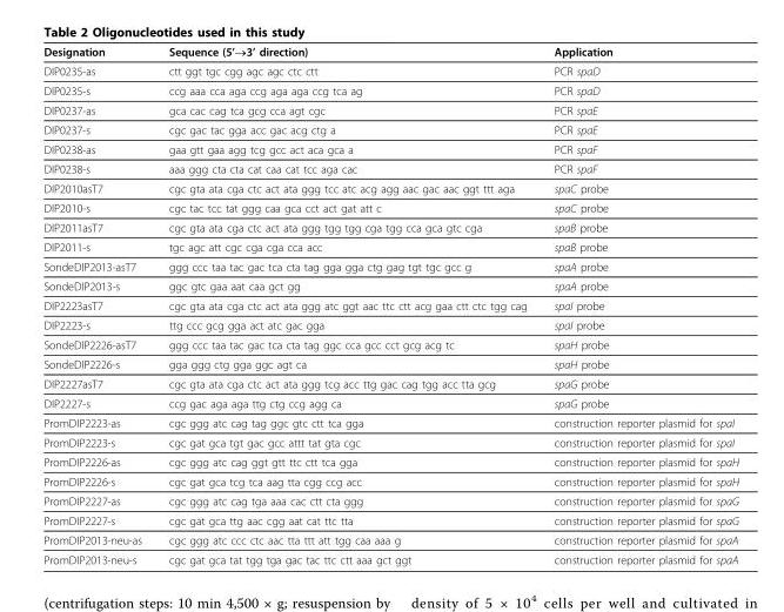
<table><thead><tr><td>Designation</td><td>Sequence (5’→3’ direction)</td><td>Application</td></tr></thead><tbody><tr><td>DIP0235-as</td><td>ctt ggt tgc cgg agc agc ctc ctt</td><td>PCR spaD</td></tr><tr><td>DIP0235-s</td><td>ccg aaa cca aga ccg aga aga ccg tca ag</td><td>PCR spaD</td></tr><tr><td>DIP0237-as</td><td>gca cac cag tca gcg cca agt cgc</td><td>PCR spaE</td></tr><tr><td>DIP0237-s</td><td>cgc gac tac gga acc gac acg ctg a</td><td>PCR spaE</td></tr><tr><td>DIP0238-as</td><td>gaa gtt gaa agg tcg gcc act aca gca a</td><td>PCR spaF</td></tr><tr><td>DIP0238-s</td><td>aaa ggg cta cta cat caa cat tcc aga cac</td><td>PCR spaF</td></tr><tr><td>DIP2010asT7</td><td>cgc gta ata cga ctc act ata ggg tcc atc acg agg aac gac aac ggt ttt aga</td><td>spaC probe</td></tr><tr><td>DIP2010-s</td><td>cgc tac tcc tat ggg caa gca cct act gat att c</td><td>spaC probe</td></tr><tr><td>DIP2011asT7</td><td>cgc gta ata cga ctc act ata ggg tgg tgg cga tgg cca gca gtc cga</td><td>spaB probe</td></tr><tr><td>DIP2011-s</td><td>tgc agc att cgc cga cga cca acc</td><td>spaB probe</td></tr><tr><td>SondeDIP2013-asT7</td><td>ggg ccc taa tac gac tca cta tag gga gga ctg gag tgt tgc gcc g</td><td>spaA probe</td></tr><tr><td>SondeDIP2013-s</td><td>ggc gtc gaa aat caa gct gg</td><td>spaA probe</td></tr><tr><td>DIP2223asT7</td><td>cgc gta ata cga ctc act ata ggg atc ggt aac ttc ctt acg gaa ctt ctc tgg cag</td><td>spaI probe</td></tr><tr><td>DIP2223-s</td><td>ttg ccc gcg gga act atc gac gga</td><td>spaI probe</td></tr><tr><td>SondeDIP2226-asT7</td><td>ggg ccc taa tac gac tca cta tag ggc cca gcc cct gcg acg tc</td><td>spaH probe</td></tr><tr><td>SondeDIP2226-s</td><td>gga ggg ctg gga ggc agt ca</td><td>spaH probe</td></tr><tr><td>DIP2227asT7</td><td>cgc gta ata cga ctc act ata ggg tcg acc ttg gac cag tgg acc tta gcg</td><td>spaG probe</td></tr><tr><td>DIP2227-s</td><td>ccg gac aga aga ttg ctg ccg agg ca</td><td>spaG probe</td></tr><tr><td>PromDIP2223-as</td><td>cgc ggg atc cag tag ggc gtc ctt tca gga</td><td>construction reporter plasmid for spaI</td></tr><tr><td>PromDIP2223-s</td><td>cgc gat gca tgt gac gcc attt tat gta cgc</td><td>construction reporter plasmid for spaI</td></tr><tr><td>PromDIP2226-as</td><td>cgc ggg atc cag ggt gtt ttc ctt tca gga</td><td>construction reporter plasmid for spaH</td></tr><tr><td>PromDIP2226-s</td><td>cgc gat gca tcg tca aag tta cgg ccg acc</td><td>construction reporter plasmid for spaH</td></tr><tr><td>PromDIP2227-as</td><td>cgc ggg atc cag tga aaa cac ctt cta ggg</td><td>construction reporter plasmid for spaG</td></tr><tr><td>PromDIP2227-s</td><td>cgc gat gca ttg aac cgg aat cat ttc tta</td><td>construction reporter plasmid for spaG</td></tr><tr><td>PromDIP2013-neu-as</td><td>cgc ggg atc ccc ctc aac tta ttt att tgg caa aaa g</td><td>construction reporter plasmid for spaA</td></tr><tr><td>PromDIP2013-neu-s</td><td>cgc gat gca tat tgg tga gac tac ttc ctt aaa gct ggt</td><td>construction reporter plasmid for spaA</td></tr></tbody></table>